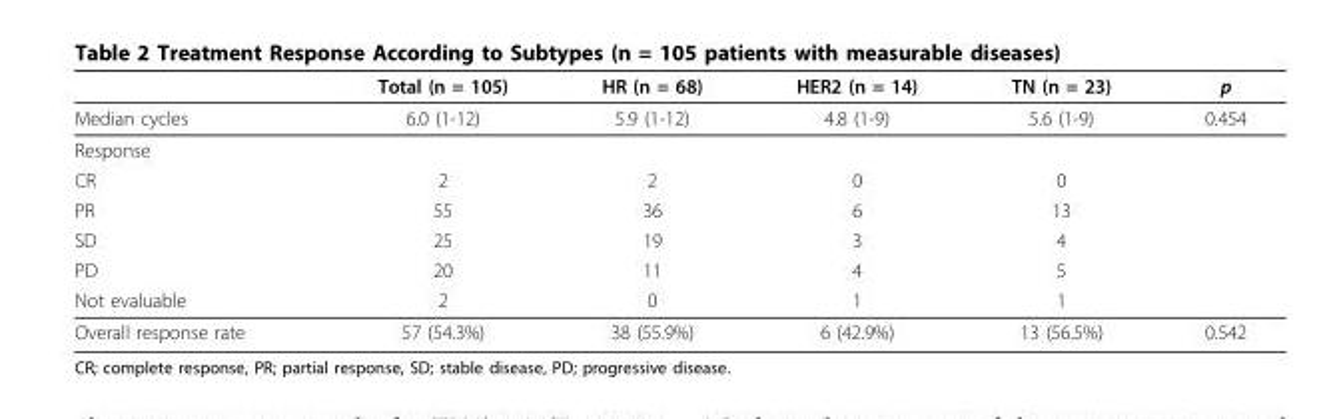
<table><thead><tr><td></td><td>Total (n = 105)</td><td>HR (n = 68)</td><td>HER2 (n = 14)</td><td>TN (n = 23)</td><td>p</td></tr></thead><tbody><tr><td>Median cycles</td><td>6.0 (1-12)</td><td>5.9 (1-12)</td><td>4.8 (1-9)</td><td>5.6 (1-9)</td><td>0.454</td></tr><tr><td colspan="6">Response</td></tr><tr><td>CR</td><td>2</td><td>2</td><td>0</td><td>0</td><td></td></tr><tr><td>PR</td><td>55</td><td>36</td><td>6</td><td>13</td><td></td></tr><tr><td>SD</td><td>25</td><td>19</td><td>3</td><td>4</td><td></td></tr><tr><td>PD</td><td>20</td><td>11</td><td>4</td><td>5</td><td></td></tr><tr><td>Not evaluable</td><td>2</td><td>0</td><td>1</td><td>1</td><td></td></tr><tr><td>Overall response rate</td><td>57 (54.3%)</td><td>38 (55.9%)</td><td>6 (42.9%)</td><td>13 (56.5%)</td><td>0.542</td></tr></tbody></table>